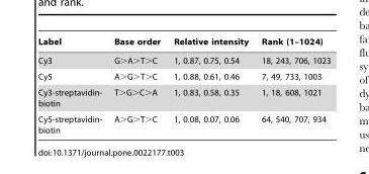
<table><thead><tr><td>Label</td><td>Base order</td><td>Relative intensity</td><td>Rank (1–1024)</td></tr></thead><tbody><tr><td>Cy3</td><td>G&gt;A&gt;T&gt;C</td><td>1, 0.87, 0.75, 0.54</td><td>18, 243, 706, 1023</td></tr><tr><td>Cy5</td><td>A&gt;G&gt;T&gt;C</td><td>1, 0.88, 0.61, 0.46</td><td>7, 49, 733, 1003</td></tr><tr><td>Cy3-streptavidin- biotin</td><td>T&gt;G&gt;C&gt;A</td><td>1, 0.83, 0.58, 0.35</td><td>1, 18, 608, 1021</td></tr><tr><td>Cy5-streptavidin- biotin</td><td>A&gt;G&gt;T&gt;C</td><td>1, 0.08, 0.07, 0.06</td><td>64, 540, 707, 934</td></tr></tbody></table>